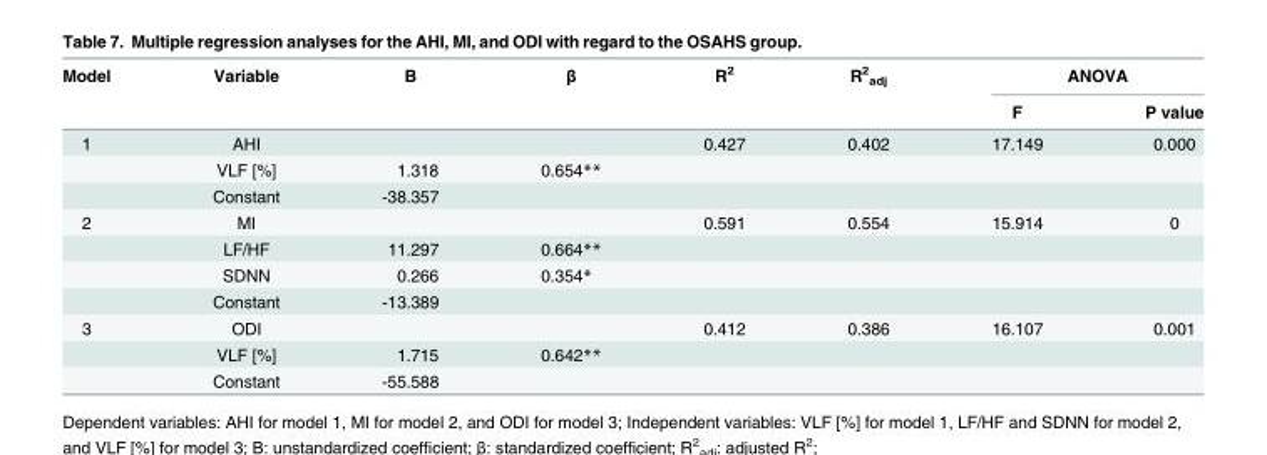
<table><thead><tr><td rowspan="2">Model</td><td rowspan="2">Variable</td><td rowspan="2">B</td><td rowspan="2">β</td><td rowspan="2">R<sup>2</sup></td><td rowspan="2">R<sup>2</sup> <sub>adj</sub></td><td colspan="2">ANOVA</td></tr><tr><td>F</td><td>P value</td></tr></thead><tbody><tr><td rowspan="3">1</td><td>AHI</td><td></td><td></td><td>0.427</td><td>0.402</td><td>17.149</td><td>0.000</td></tr><tr><td>VLF [%]</td><td>1.318</td><td>0.654**</td><td></td><td></td><td></td><td></td></tr><tr><td>Constant</td><td>-38.357</td><td></td><td></td><td></td><td></td><td></td></tr><tr><td rowspan="4">2</td><td>MI</td><td></td><td></td><td>0.591</td><td>0.554</td><td>15.914</td><td>0</td></tr><tr><td>LF/HF</td><td>11.297</td><td>0.664**</td><td></td><td></td><td></td><td></td></tr><tr><td>SDNN</td><td>0.266</td><td>0.354*</td><td></td><td></td><td></td><td></td></tr><tr><td>Constant</td><td>-13.389</td><td></td><td></td><td></td><td></td><td></td></tr><tr><td rowspan="3">3</td><td>ODI</td><td></td><td></td><td>0.412</td><td>0.386</td><td>16.107</td><td>0.001</td></tr><tr><td>VLF [%]</td><td>1.715</td><td>0.642**</td><td></td><td></td><td></td><td></td></tr><tr><td>Constant</td><td>-55.588</td><td></td><td></td><td></td><td></td><td></td></tr></tbody></table>